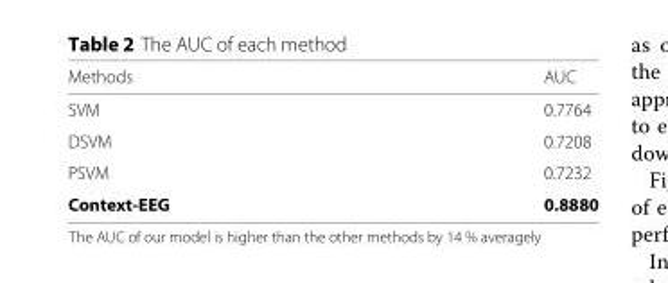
<table><thead><tr><td>Methods</td><td>AUC</td></tr></thead><tbody><tr><td>SVM</td><td>0.7764</td></tr><tr><td>DSVM</td><td>0.7208</td></tr><tr><td>PSVM</td><td>0.7232</td></tr><tr><td>Context-EEG</td><td>0.8880</td></tr></tbody></table>